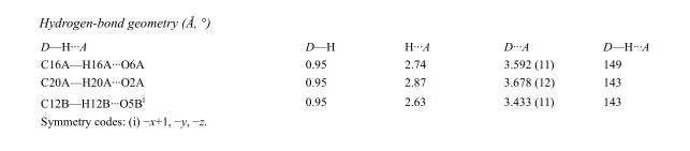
<table><tbody><tr><td>D—H···A</td><td>D—H</td><td>H···A</td><td>D···A</td><td>D—H···A</td></tr><tr><td>C16A—H16A···O6A</td><td>0.95</td><td>2.74</td><td>3.592 (11)</td><td>149</td></tr><tr><td>C20A—H20A···O2A</td><td>0.95</td><td>2.87</td><td>3.678 (12)</td><td>143</td></tr><tr><td>C12B—H12B···O5B<sup>i</sup></td><td>0.95</td><td>2.63</td><td>3.433 (11)</td><td>143</td></tr></tbody></table>